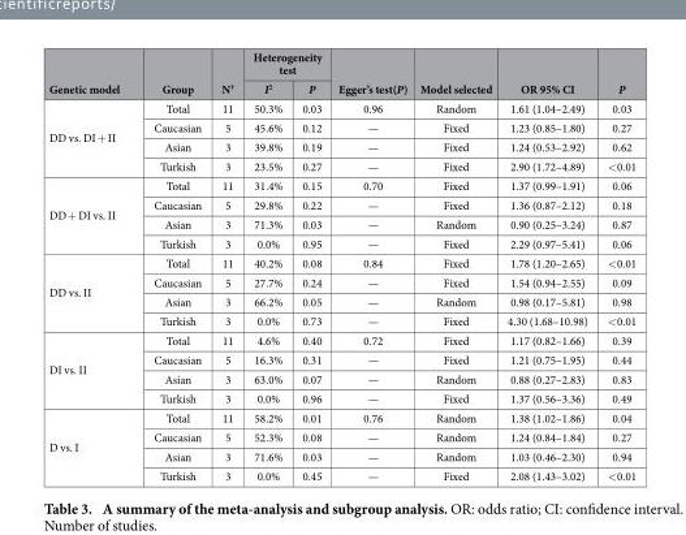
<table><thead><tr><td rowspan="2">Genetic model</td><td rowspan="2">Group</td><td rowspan="2">N†</td><td colspan="2">Heterogeneity test</td><td rowspan="2">Egger’s test(P)</td><td rowspan="2">Model selected</td><td rowspan="2">OR 95% CI</td><td rowspan="2">P</td></tr><tr><td>I<sup>2</sup></td><td>P</td></tr></thead><tbody><tr><td rowspan="4">DD vs. DI + II</td><td>Total</td><td>11</td><td>50.3%</td><td>0.03</td><td>0.96</td><td>Random</td><td>1.61 (1.04–2.49)</td><td>0.03</td></tr><tr><td>Caucasian</td><td>5</td><td>45.6%</td><td>0.12</td><td>—</td><td>Fixed</td><td>1.23 (0.85–1.80)</td><td>0.27</td></tr><tr><td>Asian</td><td>3</td><td>39.8%</td><td>0.19</td><td>—</td><td>Fixed</td><td>1.24 (0.53–2.92)</td><td>0.62</td></tr><tr><td>Turkish</td><td>3</td><td>23.5%</td><td>0.27</td><td>—</td><td>Fixed</td><td>2.90 (1.72–4.89)</td><td>&lt; 0.01</td></tr><tr><td rowspan="4">DD + DI vs. II</td><td>Total</td><td>11</td><td>31.4%</td><td>0.15</td><td>0.70</td><td>Fixed</td><td>1.37 (0.99–1.91)</td><td>0.06</td></tr><tr><td>Caucasian</td><td>5</td><td>29.8%</td><td>0.22</td><td>—</td><td>Fixed</td><td>1.36 (0.87–2.12)</td><td>0.18</td></tr><tr><td>Asian</td><td>3</td><td>71.3%</td><td>0.03</td><td>—</td><td>Random</td><td>0.90 (0.25–3.24)</td><td>0.87</td></tr><tr><td>Turkish</td><td>3</td><td>0.0%</td><td>0.95</td><td>—</td><td>Fixed</td><td>2.29 (0.97–5.41)</td><td>0.06</td></tr><tr><td rowspan="4">DD vs. II</td><td>Total</td><td>11</td><td>40.2%</td><td>0.08</td><td>0.84</td><td>Fixed</td><td>1.78 (1.20–2.65)</td><td>&lt; 0.01</td></tr><tr><td>Caucasian</td><td>5</td><td>27.7%</td><td>0.24</td><td>—</td><td>Fixed</td><td>1.54 (0.94–2.55)</td><td>0.09</td></tr><tr><td>Asian</td><td>3</td><td>66.2%</td><td>0.05</td><td>—</td><td>Random</td><td>0.98 (0.17–5.81)</td><td>0.98</td></tr><tr><td>Turkish</td><td>3</td><td>0.0%</td><td>0.73</td><td>—</td><td>Fixed</td><td>4.30 (1.68–10.98)</td><td>&lt; 0.01</td></tr><tr><td rowspan="4">DI vs. II</td><td>Total</td><td>11</td><td>4.6%</td><td>0.40</td><td>0.72</td><td>Fixed</td><td>1.17 (0.82–1.66)</td><td>0.39</td></tr><tr><td>Caucasian</td><td>5</td><td>16.3%</td><td>0.31</td><td>—</td><td>Fixed</td><td>1.21 (0.75–1.95)</td><td>0.44</td></tr><tr><td>Asian</td><td>3</td><td>63.0%</td><td>0.07</td><td>—</td><td>Random</td><td>0.88 (0.27–2.83)</td><td>0.83</td></tr><tr><td>Turkish</td><td>3</td><td>0.0%</td><td>0.96</td><td>—</td><td>Fixed</td><td>1.37 (0.56–3.36)</td><td>0.49</td></tr><tr><td rowspan="4">D vs. I</td><td>Total</td><td>11</td><td>58.2%</td><td>0.01</td><td>0.76</td><td>Random</td><td>1.38 (1.02–1.86)</td><td>0.04</td></tr><tr><td>Caucasian</td><td>5</td><td>52.3%</td><td>0.08</td><td>—</td><td>Random</td><td>1.24 (0.84–1.84)</td><td>0.27</td></tr><tr><td>Asian</td><td>3</td><td>71.6%</td><td>0.03</td><td>—</td><td>Random</td><td>1.03 (0.46–2.30)</td><td>0.94</td></tr><tr><td>Turkish</td><td>3</td><td>0.0%</td><td>0.45</td><td>—</td><td>Fixed</td><td>2.08 (1.43–3.02)</td><td>&lt; 0.01</td></tr></tbody></table>